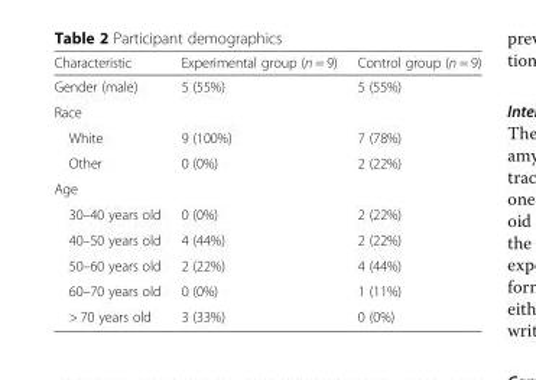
<table><thead><tr><td>Characteristic</td><td>Experimental group (n = 9)</td><td>Control group (n = 9)</td></tr></thead><tbody><tr><td>Gender (male)</td><td>5 (55%)</td><td>5 (55%)</td></tr><tr><td colspan="3">Race</td></tr><tr><td>White</td><td>9 (100%)</td><td>7 (78%)</td></tr><tr><td>Other</td><td>0 (0%)</td><td>2 (22%)</td></tr><tr><td colspan="3">Age</td></tr><tr><td>30–40 years old</td><td>0 (0%)</td><td>2 (22%)</td></tr><tr><td>40–50 years old</td><td>4 (44%)</td><td>2 (22%)</td></tr><tr><td>50–60 years old</td><td>2 (22%)</td><td>4 (44%)</td></tr><tr><td>60–70 years old</td><td>0 (0%)</td><td>1 (11%)</td></tr><tr><td>&gt; 70 years old</td><td>3 (33%)</td><td>0 (0%)</td></tr></tbody></table>